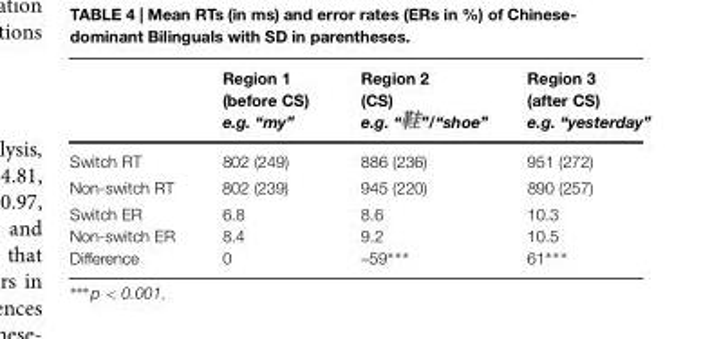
<table><thead><tr><td></td><td>Region 1 (before CS) e.g. “my”</td><td>Region 2 (CS) e.g. “ ”/“shoe”</td><td>Region 3 (after CS) e.g. “yesterday”</td></tr></thead><tbody><tr><td>Switch RT</td><td>802 (249)</td><td>886 (236)</td><td>951 (272)</td></tr><tr><td>Non-switch RT</td><td>802 (239)</td><td>945 (220)</td><td>890 (257)</td></tr><tr><td>Switch ER Non-switch ER Difference</td><td>6.8 8.4 0</td><td>8.6 9.2 –59∗∗∗</td><td>10.3 10.5 61∗∗∗</td></tr></tbody></table>